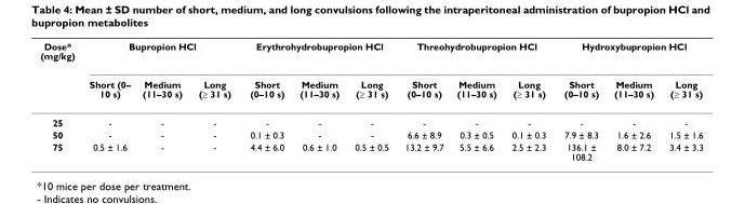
<table><thead><tr><td rowspan="2">Dose* (mg/kg)</td><td colspan="3">Bupropion HCl</td><td colspan="3">Erythrohydrobupropion HCl</td><td colspan="3">Threohydrobupropion HCl</td><td colspan="3">Hydroxybupropion HCl</td></tr><tr><td>Short (0– 10 s)</td><td>Medium (11–30 s)</td><td>Long (≥ 31 s)</td><td>Short (0–10 s)</td><td>Medium (11–30 s)</td><td>Long (≥ 31 s)</td><td>Short (0–10 s)</td><td>Medium (11–30 s)</td><td>Long (≥ 31 s)</td><td>Short (0–10 s)</td><td>Medium (11–30 s)</td><td>Long (≥ 31 s)</td></tr></thead><tbody><tr><td>25</td><td>-</td><td>-</td><td>-</td><td>-</td><td>-</td><td>-</td><td>-</td><td>-</td><td>-</td><td>-</td><td>-</td><td>-</td></tr><tr><td>50</td><td>-</td><td>-</td><td>-</td><td>0.1 ± 0.3</td><td>-</td><td>-</td><td>6.6 ± 8.9</td><td>0.3 ± 0.5</td><td>0.1 ± 0.3</td><td>7.9 ± 8.3</td><td>1.6 ± 2.6</td><td>1.5 ± 1.6</td></tr><tr><td>75</td><td>0.5 ± 1.6</td><td>-</td><td>-</td><td>4.4 ± 6.0</td><td>0.6 ± 1.0</td><td>0.5 ± 0.5</td><td>13.2 ± 9.7</td><td>5.5 ± 6.6</td><td>2.5 ± 2.3</td><td>136.1 ± 108.2</td><td>8.0 ± 7.2</td><td>3.4 ± 3.3</td></tr></tbody></table>